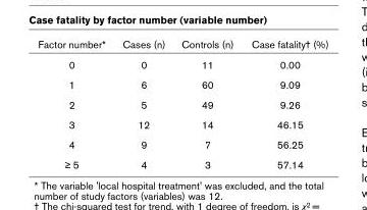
<table><thead><tr><td>Factor number*</td><td>Cases (n)</td><td>Controls (n)</td><td>Case fatality† (%)</td></tr></thead><tbody><tr><td>0</td><td>0</td><td>11</td><td>0.00</td></tr><tr><td>1</td><td>6</td><td>60</td><td>9.09</td></tr><tr><td>2</td><td>5</td><td>49</td><td>9.26</td></tr><tr><td>3</td><td>12</td><td>14</td><td>46.15</td></tr><tr><td>4</td><td>9</td><td>7</td><td>56.25</td></tr><tr><td>≥ 5</td><td>4</td><td>3</td><td>57.14</td></tr></tbody></table>